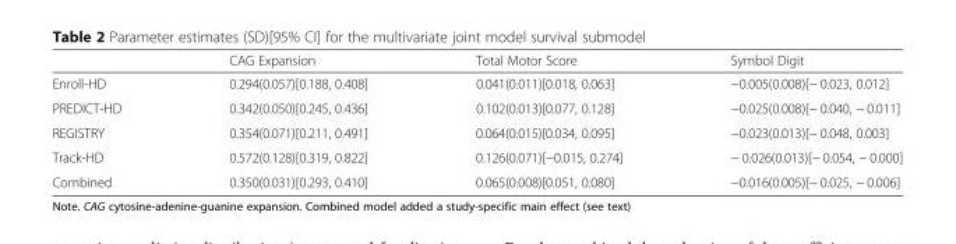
<table><thead><tr><td></td><td>CAG Expansion</td><td>Total Motor Score</td><td>Symbol Digit</td></tr></thead><tbody><tr><td>Enroll-HD</td><td>0.294(0.057)[0.188, 0.408]</td><td>0.041(0.011)[0.018, 0.063]</td><td>−0.005(0.008)[− 0.023, 0.012]</td></tr><tr><td>PREDICT-HD</td><td>0.342(0.050)[0.245, 0.436]</td><td>0.102(0.013)[0.077, 0.128]</td><td>−0.025(0.008)[− 0.040, − 0.011]</td></tr><tr><td>REGISTRY</td><td>0.354(0.071)[0.211, 0.491]</td><td>0.064(0.015)[0.034, 0.095]</td><td>−0.023(0.013)[− 0.048, 0.003]</td></tr><tr><td>Track-HD</td><td>0.572(0.128)[0.319, 0.822]</td><td>0.126(0.071)[−0.015, 0.274]</td><td>− 0.026(0.013)[− 0.054, − 0.000]</td></tr><tr><td>Combined</td><td>0.350(0.031)[0.293, 0.410]</td><td>0.065(0.008)[0.051, 0.080]</td><td>−0.016(0.005)[− 0.025, − 0.006]</td></tr></tbody></table>